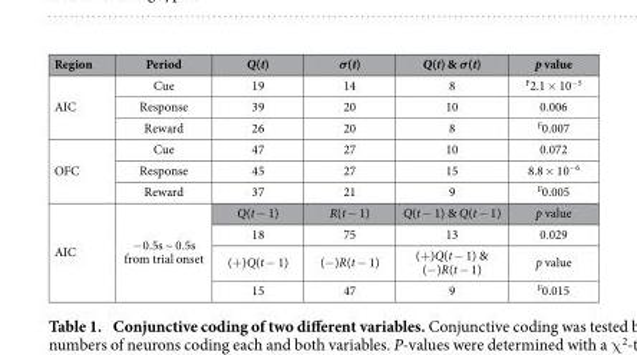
<table><thead><tr><td>Region</td><td>Period</td><td>Q(t)</td><td>σ(t)</td><td>Q(t) &amp; σ(t)</td><td>p value</td></tr></thead><tbody><tr><td rowspan="3">AIC</td><td>Cue</td><td>19</td><td>14</td><td>8</td><td><sup>F</sup>2.1 × 10<sup>−5</sup></td></tr><tr><td>Response</td><td>39</td><td>20</td><td>10</td><td>0.006</td></tr><tr><td>Reward</td><td>26</td><td>20</td><td>8</td><td><sup>F</sup>0.007</td></tr><tr><td rowspan="3">OFC</td><td>Cue</td><td>47</td><td>27</td><td>10</td><td>0.072</td></tr><tr><td>Response</td><td>45</td><td>27</td><td>15</td><td>8.8 × 10<sup>−6</sup></td></tr><tr><td>Reward</td><td>37</td><td>21</td><td>9</td><td><sup>F</sup>0.005</td></tr><tr><td rowspan="4">AIC</td><td rowspan="4">− 0.5s ~ 0.5s from trial onset</td><td>Q(t − 1)</td><td>R(t − 1)</td><td>Q(t − 1) &amp; Q(t − 1)</td><td>p value</td></tr><tr><td>18</td><td>75</td><td>13</td><td>0.029</td></tr><tr><td>(+)Q(t − 1)</td><td>(−)R(t − 1)</td><td>(+)Q(t − 1) &amp; (−)R(t − 1)</td><td>p value</td></tr><tr><td>15</td><td>47</td><td>9</td><td><sup>F</sup>0.015</td></tr></tbody></table>